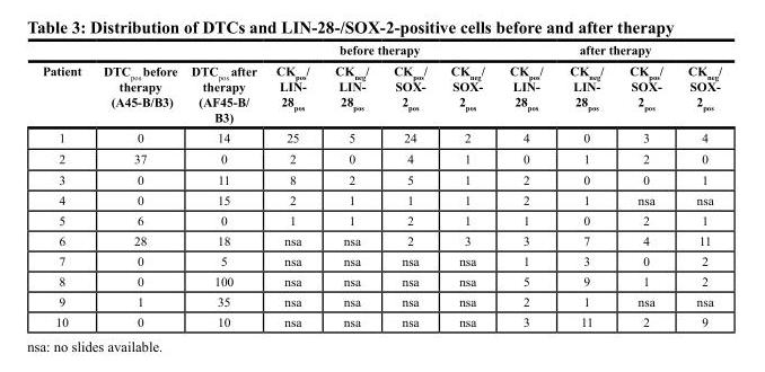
<table><thead><tr><td rowspan="2">Patient</td><td rowspan="2">DTC<sub>pos</sub> before therapy (A45‑B/B3)</td><td rowspan="2">DTC<sub>pos</sub> after therapy (AF45‑B/ B3)</td><td colspan="4">before therapy</td><td colspan="4">after therapy</td></tr><tr><td>CK<sub>pos</sub>/ LIN‑ 28<sub>pos</sub></td><td>CK<sub>neg</sub>/ LIN‑ 28<sub>pos</sub></td><td>CK<sub>pos</sub>/ SOX‑ 2<sub>pos</sub></td><td>CK<sub>neg</sub>/ SOX‑ 2<sub>pos</sub></td><td>CK<sub>pos</sub>/ LIN‑ 28<sub>pos</sub></td><td>CK<sub>neg</sub>/ LIN‑ 28<sub>pos</sub></td><td>CK<sub>pos</sub>/ SOX‑ 2<sub>pos</sub></td><td>CK<sub>neg</sub>/ SOX‑ 2<sub>pos</sub></td></tr></thead><tbody><tr><td>1</td><td>0</td><td>14</td><td>25</td><td>5</td><td>24</td><td>2</td><td>4</td><td>0</td><td>3</td><td>4</td></tr><tr><td>2</td><td>37</td><td>0</td><td>2</td><td>0</td><td>4</td><td>1</td><td>0</td><td>1</td><td>2</td><td>0</td></tr><tr><td>3</td><td>0</td><td>11</td><td>8</td><td>2</td><td>5</td><td>1</td><td>2</td><td>0</td><td>0</td><td>1</td></tr><tr><td>4</td><td>0</td><td>15</td><td>2</td><td>1</td><td>1</td><td>1</td><td>2</td><td>1</td><td>nsa</td><td>nsa</td></tr><tr><td>5</td><td>6</td><td>0</td><td>1</td><td>1</td><td>2</td><td>1</td><td>1</td><td>0</td><td>2</td><td>1</td></tr><tr><td>6</td><td>28</td><td>18</td><td>nsa</td><td>nsa</td><td>2</td><td>3</td><td>3</td><td>7</td><td>4</td><td>11</td></tr><tr><td>7</td><td>0</td><td>5</td><td>nsa</td><td>nsa</td><td>nsa</td><td>nsa</td><td>1</td><td>3</td><td>0</td><td>2</td></tr><tr><td>8</td><td>0</td><td>100</td><td>nsa</td><td>nsa</td><td>nsa</td><td>nsa</td><td>5</td><td>9</td><td>1</td><td>2</td></tr><tr><td>9</td><td>1</td><td>35</td><td>nsa</td><td>nsa</td><td>nsa</td><td>nsa</td><td>2</td><td>1</td><td>nsa</td><td>nsa</td></tr><tr><td>10</td><td>0</td><td>10</td><td>nsa</td><td>nsa</td><td>nsa</td><td>nsa</td><td>3</td><td>11</td><td>2</td><td>9</td></tr></tbody></table>